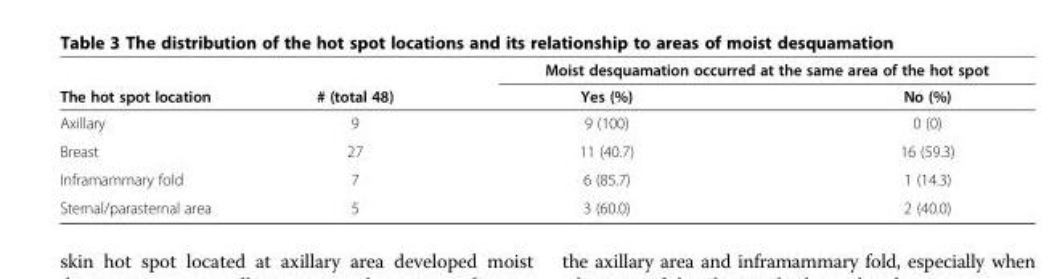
<table><thead><tr><td rowspan="2">The hot spot location</td><td rowspan="2"># (total 48)</td><td colspan="2">Moist desquamation occurred at the same area of the hot spot</td></tr><tr><td>Yes (%)</td><td>No (%)</td></tr></thead><tbody><tr><td>Axillary</td><td>9</td><td>9 (100)</td><td>0 (0)</td></tr><tr><td>Breast</td><td>27</td><td>11 (40.7)</td><td>16 (59.3)</td></tr><tr><td>Inframammary fold</td><td>7</td><td>6 (85.7)</td><td>1 (14.3)</td></tr><tr><td>Sternal/parasternal area</td><td>5</td><td>3 (60.0)</td><td>2 (40.0)</td></tr></tbody></table>